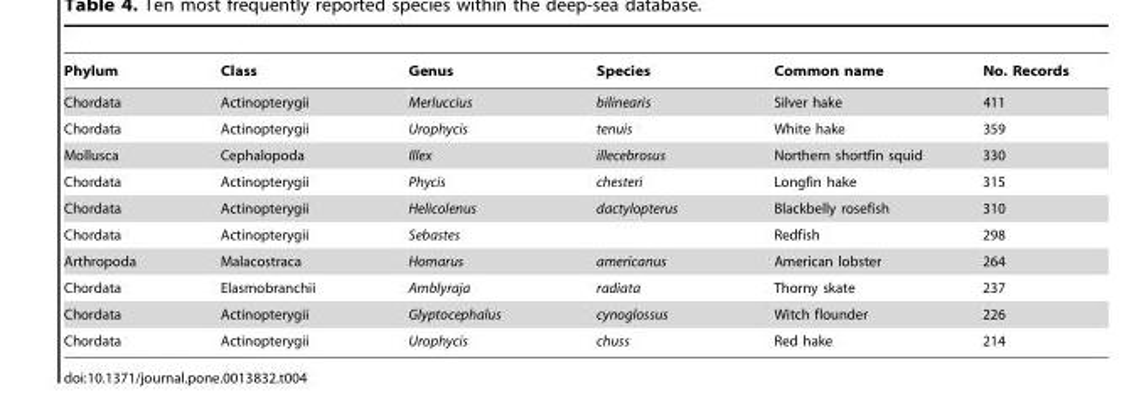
<table><thead><tr><td>Phylum</td><td>Class</td><td>Genus</td><td>Species</td><td>Common name</td><td>No. Records</td></tr></thead><tbody><tr><td>Chordata</td><td>Actinopterygii</td><td>Merluccius</td><td>bilinearis</td><td>Silver hake</td><td>411</td></tr><tr><td>Chordata</td><td>Actinopterygii</td><td>Urophycis</td><td>tenuis</td><td>White hake</td><td>359</td></tr><tr><td>Mollusca</td><td>Cephalopoda</td><td>Illex</td><td>illecebrosus</td><td>Northern shortfin squid</td><td>330</td></tr><tr><td>Chordata</td><td>Actinopterygii</td><td>Phycis</td><td>chesteri</td><td>Longfin hake</td><td>315</td></tr><tr><td>Chordata</td><td>Actinopterygii</td><td>Helicolenus</td><td>dactylopterus</td><td>Blackbelly rosefish</td><td>310</td></tr><tr><td>Chordata</td><td>Actinopterygii</td><td>Sebastes</td><td></td><td>Redfish</td><td>298</td></tr><tr><td>Arthropoda</td><td>Malacostraca</td><td>Homarus</td><td>americanus</td><td>American lobster</td><td>264</td></tr><tr><td>Chordata</td><td>Elasmobranchii</td><td>Amblyraja</td><td>radiata</td><td>Thorny skate</td><td>237</td></tr><tr><td>Chordata</td><td>Actinopterygii</td><td>Glyptocephalus</td><td>cynoglossus</td><td>Witch flounder</td><td>226</td></tr><tr><td>Chordata</td><td>Actinopterygii</td><td>Urophycis</td><td>chuss</td><td>Red hake</td><td>214</td></tr></tbody></table>